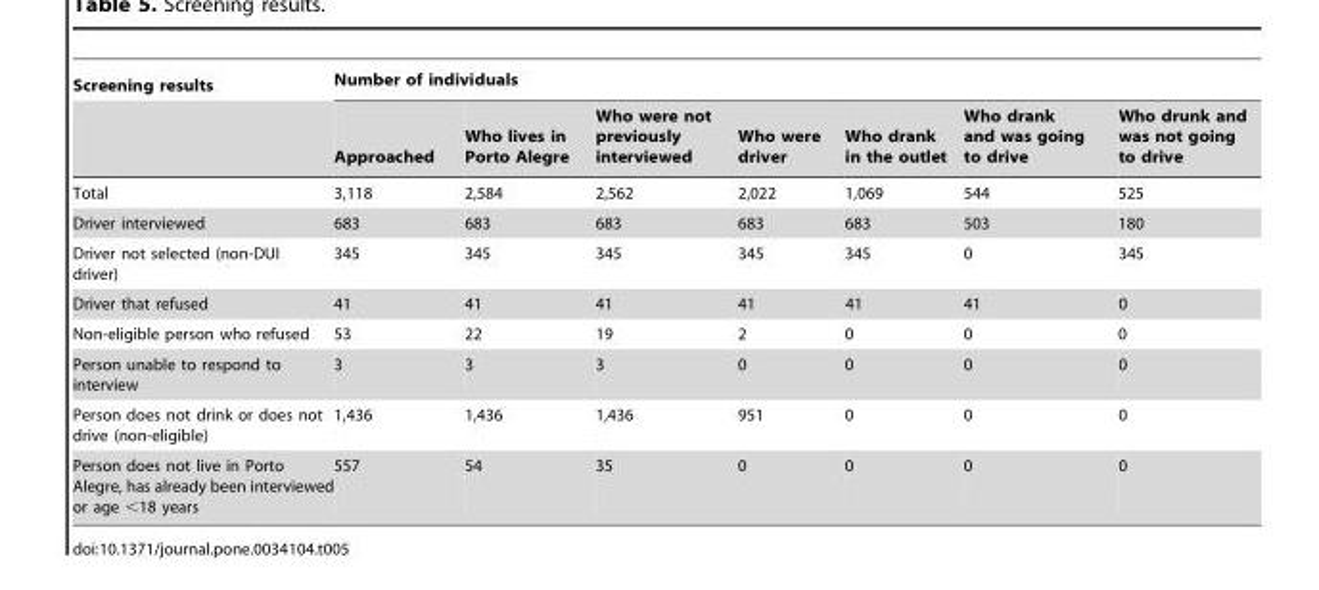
<table><thead><tr><td rowspan="2">Screening results</td><td colspan="7">Number of individuals</td></tr><tr><td>Approached</td><td>Who lives in Porto Alegre</td><td>Who were not previously interviewed</td><td>Who were driver</td><td>Who drank in the outlet</td><td>Who drank and was going to drive</td><td>Who drunk and was not going to drive</td></tr></thead><tbody><tr><td>Total</td><td>3,118</td><td>2,584</td><td>2,562</td><td>2,022</td><td>1,069</td><td>544</td><td>525</td></tr><tr><td>Driver interviewed</td><td>683</td><td>683</td><td>683</td><td>683</td><td>683</td><td>503</td><td>180</td></tr><tr><td>Driver not selected (non-DUI driver)</td><td>345</td><td>345</td><td>345</td><td>345</td><td>345</td><td>0</td><td>345</td></tr><tr><td>Driver that refused</td><td>41</td><td>41</td><td>41</td><td>41</td><td>41</td><td>41</td><td>0</td></tr><tr><td>Non-eligible person who refused</td><td>53</td><td>22</td><td>19</td><td>2</td><td>0</td><td>0</td><td>0</td></tr><tr><td>Person unable to respond to interview</td><td>3</td><td>3</td><td>3</td><td>0</td><td>0</td><td>0</td><td>0</td></tr><tr><td>Person does not drink or does not drive (non-eligible)</td><td>1,436</td><td>1,436</td><td>1,436</td><td>951</td><td>0</td><td>0</td><td>0</td></tr><tr><td>Person does not live in Porto Alegre, has already been interviewed or age &lt;18 years</td><td>557</td><td>54</td><td>35</td><td>0</td><td>0</td><td>0</td><td>0</td></tr></tbody></table>